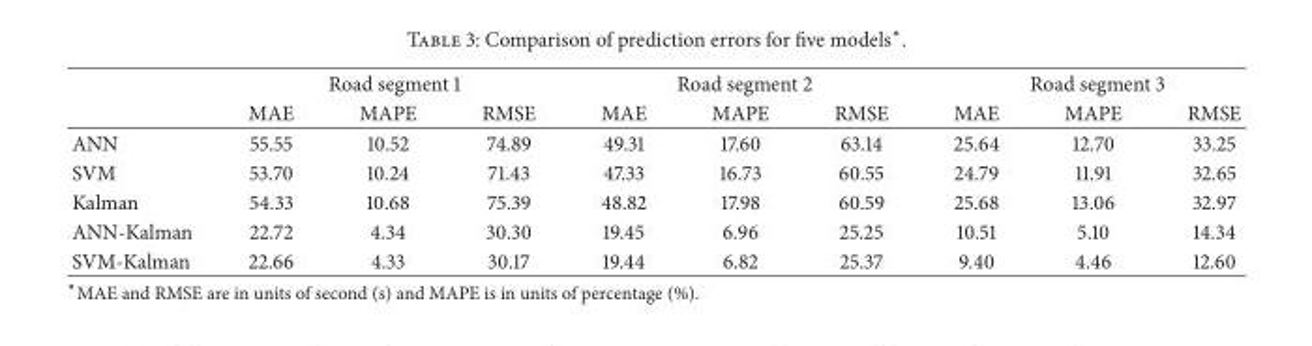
<table><thead><tr><td rowspan="2"></td><td colspan="3">Road segment 1</td><td colspan="3">Road segment 2</td><td colspan="3">Road segment 3</td></tr><tr><td>MAE</td><td>MAPE</td><td>RMSE</td><td>MAE</td><td>MAPE</td><td>RMSE</td><td>MAE</td><td>MAPE</td><td>RMSE</td></tr></thead><tbody><tr><td>ANN</td><td>55.55</td><td>10.52</td><td>74.89</td><td>49.31</td><td>17.60</td><td>63.14</td><td>25.64</td><td>12.70</td><td>33.25</td></tr><tr><td>SVM</td><td>53.70</td><td>10.24</td><td>71.43</td><td>47.33</td><td>16.73</td><td>60.55</td><td>24.79</td><td>11.91</td><td>32.65</td></tr><tr><td>Kalman</td><td>54.33</td><td>10.68</td><td>75.39</td><td>48.82</td><td>17.98</td><td>60.59</td><td>25.68</td><td>13.06</td><td>32.97</td></tr><tr><td>ANN-Kalman</td><td>22.72</td><td>4.34</td><td>30.30</td><td>19.45</td><td>6.96</td><td>25.25</td><td>10.51</td><td>5.10</td><td>14.34</td></tr><tr><td>SVM-Kalman</td><td>22.66</td><td>4.33</td><td>30.17</td><td>19.44</td><td>6.82</td><td>25.37</td><td>9.40</td><td>4.46</td><td>12.60</td></tr></tbody></table>